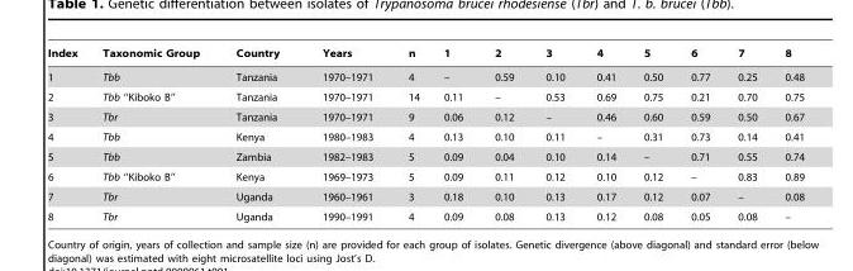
<table><thead><tr><td>Index</td><td>Taxonomic Group</td><td>Country</td><td>Years</td><td>n</td><td>1</td><td>2</td><td>3</td><td>4</td><td>5</td><td>6</td><td>7</td><td>8</td></tr></thead><tbody><tr><td>1</td><td>Tbb</td><td>Tanzania</td><td>1970–1971</td><td>4</td><td>–</td><td>0.59</td><td>0.10</td><td>0.41</td><td>0.50</td><td>0.77</td><td>0.25</td><td>0.48</td></tr><tr><td>2</td><td>Tbb ‘‘Kiboko B’’</td><td>Tanzania</td><td>1970–1971</td><td>14</td><td>0.11</td><td>–</td><td>0.53</td><td>0.69</td><td>0.75</td><td>0.21</td><td>0.70</td><td>0.75</td></tr><tr><td>3</td><td>Tbr</td><td>Tanzania</td><td>1970–1971</td><td>9</td><td>0.06</td><td>0.12</td><td>–</td><td>0.46</td><td>0.60</td><td>0.59</td><td>0.50</td><td>0.67</td></tr><tr><td>4</td><td>Tbb</td><td>Kenya</td><td>1980–1983</td><td>4</td><td>0.13</td><td>0.10</td><td>0.11</td><td>–</td><td>0.31</td><td>0.73</td><td>0.14</td><td>0.41</td></tr><tr><td>5</td><td>Tbb</td><td>Zambia</td><td>1982–1983</td><td>5</td><td>0.09</td><td>0.04</td><td>0.10</td><td>0.14</td><td>–</td><td>0.71</td><td>0.55</td><td>0.74</td></tr><tr><td>6</td><td>Tbb ‘‘Kiboko B’’</td><td>Kenya</td><td>1969–1973</td><td>5</td><td>0.09</td><td>0.11</td><td>0.12</td><td>0.10</td><td>0.12</td><td>–</td><td>0.83</td><td>0.89</td></tr><tr><td>7</td><td>Tbr</td><td>Uganda</td><td>1960–1961</td><td>3</td><td>0.18</td><td>0.10</td><td>0.13</td><td>0.17</td><td>0.12</td><td>0.07</td><td>–</td><td>0.08</td></tr><tr><td>8</td><td>Tbr</td><td>Uganda</td><td>1990–1991</td><td>4</td><td>0.09</td><td>0.08</td><td>0.13</td><td>0.12</td><td>0.08</td><td>0.05</td><td>0.08</td><td>–</td></tr></tbody></table>